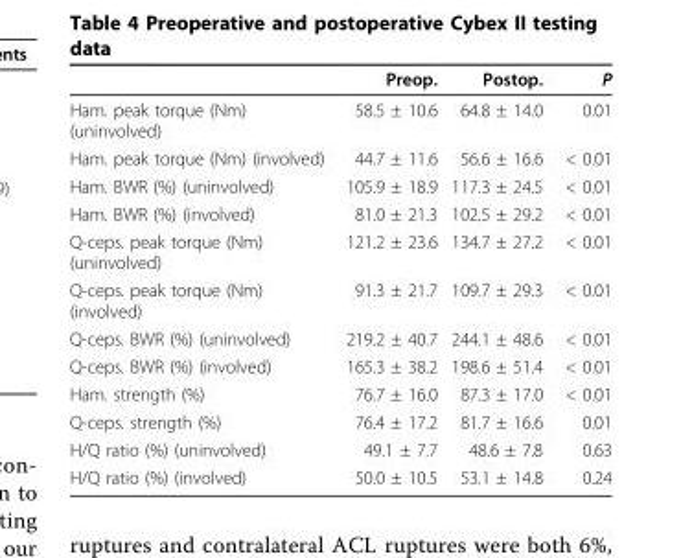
<table><thead><tr><td></td><td>Preop.</td><td>Postop.</td><td>P</td></tr></thead><tbody><tr><td>Ham. peak torque (Nm) (uninvolved)</td><td>58.5 ± 10.6</td><td>64.8 ± 14.0</td><td>0.01</td></tr><tr><td>Ham. peak torque (Nm) (involved)</td><td>44.7 ± 11.6</td><td>56.6 ± 16.6</td><td>&lt; 0.01</td></tr><tr><td>Ham. BWR (%) (uninvolved)</td><td>105.9 ± 18.9</td><td>117.3 ± 24.5</td><td>&lt; 0.01</td></tr><tr><td>Ham. BWR (%) (involved)</td><td>81.0 ± 21.3</td><td>102.5 ± 29.2</td><td>&lt; 0.01</td></tr><tr><td>Q-ceps. peak torque (Nm) (uninvolved)</td><td>121.2 ± 23.6</td><td>134.7 ± 27.2</td><td>&lt; 0.01</td></tr><tr><td>Q-ceps. peak torque (Nm) (involved)</td><td>91.3 ± 21.7</td><td>109.7 ± 29.3</td><td>&lt; 0.01</td></tr><tr><td>Q-ceps. BWR (%) (uninvolved)</td><td>219.2 ± 40.7</td><td>244.1 ± 48.6</td><td>&lt; 0.01</td></tr><tr><td>Q-ceps. BWR (%) (involved)</td><td>165.3 ± 38.2</td><td>198.6 ± 51.4</td><td>&lt; 0.01</td></tr><tr><td>Ham. strength (%)</td><td>76.7 ± 16.0</td><td>87.3 ± 17.0</td><td>&lt; 0.01</td></tr><tr><td>Q-ceps. strength (%)</td><td>76.4 ± 17.2</td><td>81.7 ± 16.6</td><td>0.01</td></tr><tr><td>H/Q ratio (%) (uninvolved)</td><td>49.1 ± 7.7</td><td>48.6 ± 7.8</td><td>0.63</td></tr><tr><td>H/Q ratio (%) (involved)</td><td>50.0 ± 10.5</td><td>53.1 ± 14.8</td><td>0.24</td></tr></tbody></table>